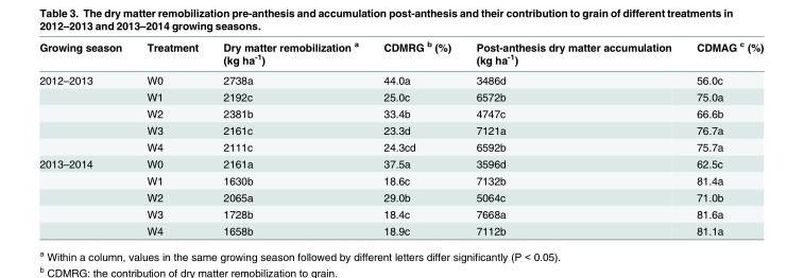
<table><thead><tr><td>Growing season</td><td>Treatment</td><td>Dry matter remobilization <sup>a</sup> (kg ha<sup>-1</sup>)</td><td>CDMRG <sup>b</sup> (%)</td><td>Post-anthesis dry matter accumulation (kg ha<sup>-1</sup>)</td><td>CDMAG <sup>c</sup> (%)</td></tr></thead><tbody><tr><td rowspan="5">2012–2013</td><td>W0</td><td>2738a</td><td>44.0a</td><td>3486d</td><td>56.0c</td></tr><tr><td>W1</td><td>2192c</td><td>25.0c</td><td>6572b</td><td>75.0a</td></tr><tr><td>W2</td><td>2381b</td><td>33.4b</td><td>4747c</td><td>66.6b</td></tr><tr><td>W3</td><td>2161c</td><td>23.3d</td><td>7121a</td><td>76.7a</td></tr><tr><td>W4</td><td>2111c</td><td>24.3cd</td><td>6592b</td><td>75.7a</td></tr><tr><td rowspan="5">2013–2014</td><td>W0</td><td>2161a</td><td>37.5a</td><td>3596d</td><td>62.5c</td></tr><tr><td>W1</td><td>1630b</td><td>18.6c</td><td>7132b</td><td>81.4a</td></tr><tr><td>W2</td><td>2065a</td><td>29.0b</td><td>5064c</td><td>71.0b</td></tr><tr><td>W3</td><td>1728b</td><td>18.4c</td><td>7668a</td><td>81.6a</td></tr><tr><td>W4</td><td>1658b</td><td>18.9c</td><td>7112b</td><td>81.1a</td></tr></tbody></table>